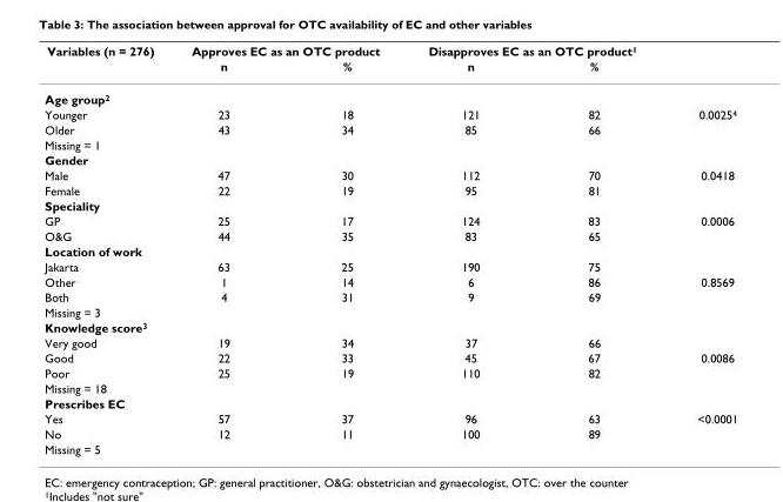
<table><thead><tr><td rowspan="2">Variables (n = 276)</td><td colspan="2">Approves EC as an OTC product</td><td colspan="2">Disapproves EC as an OTC product<sup>1</sup></td><td rowspan="2"></td></tr><tr><td>n</td><td>%</td><td>n</td><td>%</td></tr></thead><tbody><tr><td colspan="6">Age group<sup>2</sup></td></tr><tr><td>Younger</td><td>23</td><td>18</td><td>121</td><td>82</td><td>0.0025<sup>4</sup></td></tr><tr><td>Older</td><td>43</td><td>34</td><td>85</td><td>66</td><td></td></tr><tr><td colspan="6">Missing = 1</td></tr><tr><td colspan="6">Gender</td></tr><tr><td>Male</td><td>47</td><td>30</td><td>112</td><td>70</td><td>0.0418</td></tr><tr><td>Female</td><td>22</td><td>19</td><td>95</td><td>81</td><td></td></tr><tr><td colspan="6">Speciality</td></tr><tr><td>GP</td><td>25</td><td>17</td><td>124</td><td>83</td><td>0.0006</td></tr><tr><td>O&amp;G</td><td>44</td><td>35</td><td>83</td><td>65</td><td></td></tr><tr><td colspan="6">Location of work</td></tr><tr><td>Jakarta</td><td>63</td><td>25</td><td>190</td><td>75</td><td></td></tr><tr><td>Other</td><td>1</td><td>14</td><td>6</td><td>86</td><td>0.8569</td></tr><tr><td>Both</td><td>4</td><td>31</td><td>9</td><td>69</td><td></td></tr><tr><td colspan="6">Missing = 3</td></tr><tr><td colspan="6">Knowledge score<sup>3</sup></td></tr><tr><td>Very good</td><td>19</td><td>34</td><td>37</td><td>66</td><td></td></tr><tr><td>Good</td><td>22</td><td>33</td><td>45</td><td>67</td><td>0.0086</td></tr><tr><td>Poor</td><td>25</td><td>19</td><td>110</td><td>82</td><td></td></tr><tr><td colspan="6">Missing = 18</td></tr><tr><td colspan="6">Prescribes EC</td></tr><tr><td>Yes</td><td>57</td><td>37</td><td>96</td><td>63</td><td>&lt;0.0001</td></tr><tr><td>No</td><td>12</td><td>11</td><td>100</td><td>89</td><td></td></tr><tr><td>Missing = 5</td><td></td><td></td><td></td><td></td><td></td></tr></tbody></table>